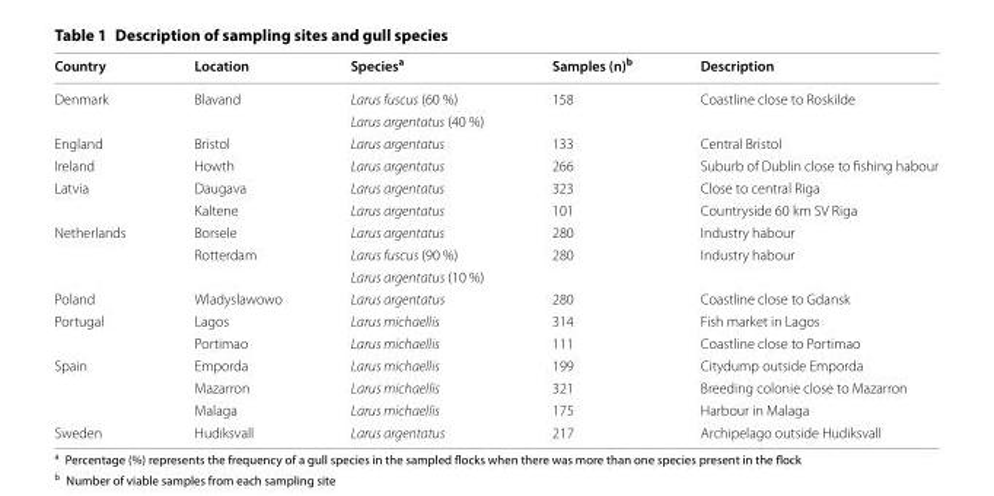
<table><thead><tr><td>Country</td><td>Location</td><td>Species<sup>a</sup></td><td>Samples (n)<sup>b</sup></td><td>Description</td></tr></thead><tbody><tr><td rowspan="2">Denmark</td><td>Blavand</td><td>Larus fuscus (60 %)</td><td>158</td><td>Coastline close to Roskilde</td></tr><tr><td></td><td>Larus argentatus (40 %)</td><td></td><td></td></tr><tr><td>England</td><td>Bristol</td><td>Larus argentatus</td><td>133</td><td>Central Bristol</td></tr><tr><td>Ireland</td><td>Howth</td><td>Larus argentatus</td><td>266</td><td>Suburb of Dublin close to fishing habour</td></tr><tr><td rowspan="2">Latvia</td><td>Daugava</td><td>Larus argentatus</td><td>323</td><td>Close to central Riga</td></tr><tr><td>Kaltene</td><td>Larus argentatus</td><td>101</td><td>Countryside 60 km SV Riga</td></tr><tr><td rowspan="3">Netherlands</td><td>Borsele</td><td>Larus argentatus</td><td>280</td><td>Industry habour</td></tr><tr><td>Rotterdam</td><td>Larus fuscus (90 %)</td><td>280</td><td>Industry habour</td></tr><tr><td></td><td>Larus argentatus (10 %)</td><td></td><td></td></tr><tr><td>Poland</td><td>Wladyslawowo</td><td>Larus argentatus</td><td>280</td><td>Coastline close to Gdansk</td></tr><tr><td rowspan="2">Portugal</td><td>Lagos</td><td>Larus michaellis</td><td>314</td><td>Fish market in Lagos</td></tr><tr><td>Portimao</td><td>Larus michaellis</td><td>111</td><td>Coastline close to Portimao</td></tr><tr><td rowspan="3">Spain</td><td>Emporda</td><td>Larus michaellis</td><td>199</td><td>Citydump outside Emporda</td></tr><tr><td>Mazarron</td><td>Larus michaellis</td><td>321</td><td>Breeding colonie close to Mazarron</td></tr><tr><td>Malaga</td><td>Larus michaellis</td><td>175</td><td>Harbour in Malaga</td></tr><tr><td>Sweden</td><td>Hudiksvall</td><td>Larus argentatus</td><td>217</td><td>Archipelago outside Hudiksvall</td></tr></tbody></table>